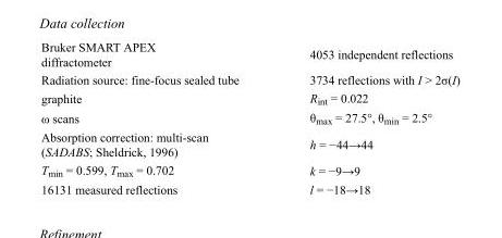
<table><tbody><tr><td>Bruker SMART APEX diffractometer</td><td>4053 independent reflections</td></tr><tr><td>Radiation source: fine-focus sealed tube</td><td>3734 reflections with I &gt; 2σ(I)</td></tr><tr><td>graphite</td><td>R<sub>int</sub> = 0.022</td></tr><tr><td>ω scans</td><td>θ<sub>max</sub> = 27.5°, θ<sub>min</sub> = 2.5°</td></tr><tr><td>Absorption correction: multi-scan (SADABS; Sheldrick, 1996)</td><td>h = −44→44</td></tr><tr><td>T<sub>min</sub> = 0.599, T<sub>max</sub> = 0.702</td><td>k = −9→9</td></tr><tr><td>16131 measured reflections</td><td>l = −18→18</td></tr></tbody></table>